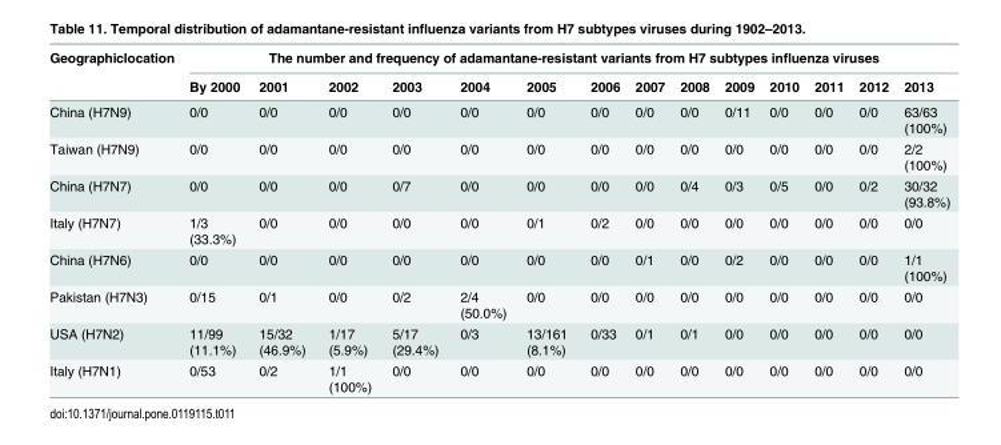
<table><thead><tr><td rowspan="2">Geographiclocation</td><td colspan="14">The number and frequency of adamantane-resistant variants from H7 subtypes influenza viruses</td></tr><tr><td>By 2000</td><td>2001</td><td>2002</td><td>2003</td><td>2004</td><td>2005</td><td>2006</td><td>2007</td><td>2008</td><td>2009</td><td>2010</td><td>2011</td><td>2012</td><td>2013</td></tr></thead><tbody><tr><td>China (H7N9)</td><td>0/0</td><td>0/0</td><td>0/0</td><td>0/0</td><td>0/0</td><td>0/0</td><td>0/0</td><td>0/0</td><td>0/0</td><td>0/11</td><td>0/0</td><td>0/0</td><td>0/0</td><td>63/63 (100%)</td></tr><tr><td>Taiwan (H7N9)</td><td>0/0</td><td>0/0</td><td>0/0</td><td>0/0</td><td>0/0</td><td>0/0</td><td>0/0</td><td>0/0</td><td>0/0</td><td>0/0</td><td>0/0</td><td>0/0</td><td>0/0</td><td>2/2 (100%)</td></tr><tr><td>China (H7N7)</td><td>0/0</td><td>0/0</td><td>0/0</td><td>0/7</td><td>0/0</td><td>0/0</td><td>0/0</td><td>0/0</td><td>0/4</td><td>0/3</td><td>0/5</td><td>0/0</td><td>0/2</td><td>30/32 (93.8%)</td></tr><tr><td>Italy (H7N7)</td><td>1/3 (33.3%)</td><td>0/0</td><td>0/0</td><td>0/0</td><td>0/0</td><td>0/1</td><td>0/2</td><td>0/0</td><td>0/0</td><td>0/0</td><td>0/0</td><td>0/0</td><td>0/0</td><td>0/0</td></tr><tr><td>China (H7N6)</td><td>0/0</td><td>0/0</td><td>0/0</td><td>0/0</td><td>0/0</td><td>0/0</td><td>0/0</td><td>0/1</td><td>0/0</td><td>0/2</td><td>0/0</td><td>0/0</td><td>0/0</td><td>1/1 (100%)</td></tr><tr><td>Pakistan (H7N3)</td><td>0/15</td><td>0/1</td><td>0/0</td><td>0/2</td><td>2/4 (50.0%)</td><td>0/0</td><td>0/0</td><td>0/0</td><td>0/0</td><td>0/0</td><td>0/0</td><td>0/0</td><td>0/0</td><td>0/0</td></tr><tr><td>USA (H7N2)</td><td>11/99 (11.1%)</td><td>15/32 (46.9%)</td><td>1/17 (5.9%)</td><td>5/17 (29.4%)</td><td>0/3</td><td>13/161 (8.1%)</td><td>0/33</td><td>0/1</td><td>0/1</td><td>0/0</td><td>0/0</td><td>0/0</td><td>0/0</td><td>0/0</td></tr><tr><td>Italy (H7N1)</td><td>0/53</td><td>0/2</td><td>1/1 (100%)</td><td>0/0</td><td>0/0</td><td>0/0</td><td>0/0</td><td>0/0</td><td>0/0</td><td>0/0</td><td>0/0</td><td>0/0</td><td>0/0</td><td>0/0</td></tr></tbody></table>